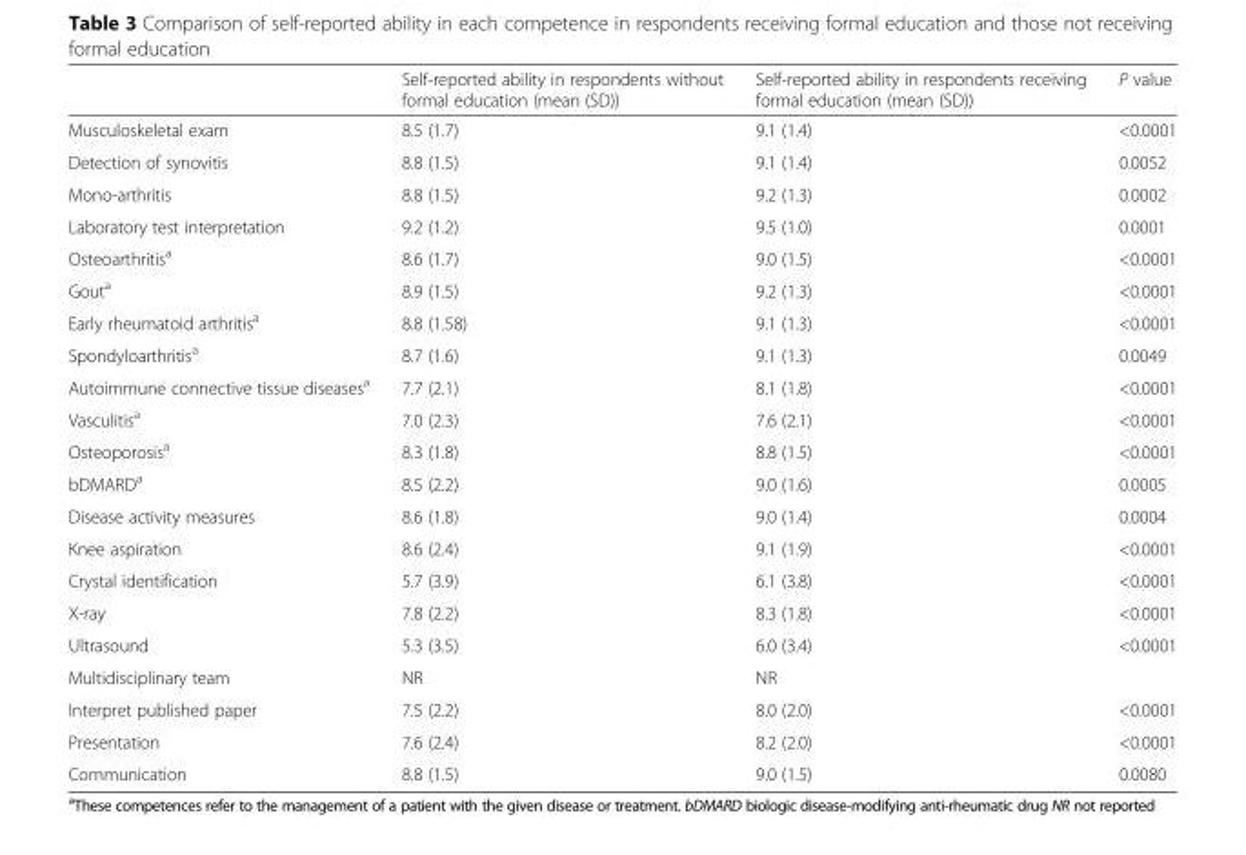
<table><thead><tr><td></td><td>Self-reported ability in respondents without formal education (mean (SD))</td><td>Self-reported ability in respondents receiving formal education (mean (SD))</td><td>P value</td></tr></thead><tbody><tr><td>Musculoskeletal exam</td><td>8.5 (1.7)</td><td>9.1 (1.4)</td><td>&lt;0.0001</td></tr><tr><td>Detection of synovitis</td><td>8.8 (1.5)</td><td>9.1 (1.4)</td><td>0.0052</td></tr><tr><td>Mono-arthritis</td><td>8.8 (1.5)</td><td>9.2 (1.3)</td><td>0.0002</td></tr><tr><td>Laboratory test interpretation</td><td>9.2 (1.2)</td><td>9.5 (1.0)</td><td>0.0001</td></tr><tr><td>Osteoarthritis<sup>a</sup></td><td>8.6 (1.7)</td><td>9.0 (1.5)</td><td>&lt;0.0001</td></tr><tr><td>Gout<sup>a</sup></td><td>8.9 (1.5)</td><td>9.2 (1.3)</td><td>&lt;0.0001</td></tr><tr><td>Early rheumatoid arthritis<sup>a</sup></td><td>8.8 (1.58)</td><td>9.1 (1.3)</td><td>&lt;0.0001</td></tr><tr><td>Spondyloarthritis<sup>a</sup></td><td>8.7 (1.6)</td><td>9.1 (1.3)</td><td>0.0049</td></tr><tr><td>Autoimmune connective tissue diseases<sup>a</sup></td><td>7.7 (2.1)</td><td>8.1 (1.8)</td><td>&lt;0.0001</td></tr><tr><td>Vasculitis<sup>a</sup></td><td>7.0 (2.3)</td><td>7.6 (2.1)</td><td>&lt;0.0001</td></tr><tr><td>Osteoporosis<sup>a</sup></td><td>8.3 (1.8)</td><td>8.8 (1.5)</td><td>&lt;0.0001</td></tr><tr><td>bDMARD<sup>a</sup></td><td>8.5 (2.2)</td><td>9.0 (1.6)</td><td>0.0005</td></tr><tr><td>Disease activity measures</td><td>8.6 (1.8)</td><td>9.0 (1.4)</td><td>0.0004</td></tr><tr><td>Knee aspiration</td><td>8.6 (2.4)</td><td>9.1 (1.9)</td><td>&lt;0.0001</td></tr><tr><td>Crystal identification</td><td>5.7 (3.9)</td><td>6.1 (3.8)</td><td>&lt;0.0001</td></tr><tr><td>X-ray</td><td>7.8 (2.2)</td><td>8.3 (1.8)</td><td>&lt;0.0001</td></tr><tr><td>Ultrasound</td><td>5.3 (3.5)</td><td>6.0 (3.4)</td><td>&lt;0.0001</td></tr><tr><td>Multidisciplinary team</td><td>NR</td><td>NR</td><td></td></tr><tr><td>Interpret published paper</td><td>7.5 (2.2)</td><td>8.0 (2.0)</td><td>&lt;0.0001</td></tr><tr><td>Presentation</td><td>7.6 (2.4)</td><td>8.2 (2.0)</td><td>&lt;0.0001</td></tr><tr><td>Communication</td><td>8.8 (1.5)</td><td>9.0 (1.5)</td><td>0.0080</td></tr></tbody></table>